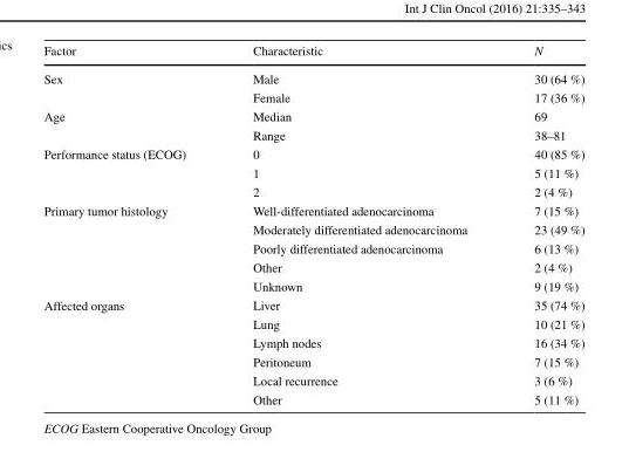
<table><thead><tr><td>Factor</td><td>Characteristic</td><td>N</td></tr></thead><tbody><tr><td rowspan="2">Sex</td><td>Male</td><td>30 (64 %)</td></tr><tr><td>Female</td><td>17 (36 %)</td></tr><tr><td rowspan="2">Age</td><td>Median</td><td>69</td></tr><tr><td>Range</td><td>38–81</td></tr><tr><td rowspan="3">Performance status (ECOG)</td><td>0</td><td>40 (85 %)</td></tr><tr><td>1</td><td>5 (11 %)</td></tr><tr><td>2</td><td>2 (4 %)</td></tr><tr><td rowspan="5">Primary tumor histology</td><td>Well-differentiated adenocarcinoma</td><td>7 (15 %)</td></tr><tr><td>Moderately differentiated adenocarcinoma</td><td>23 (49 %)</td></tr><tr><td>Poorly differentiated adenocarcinoma</td><td>6 (13 %)</td></tr><tr><td>Other</td><td>2 (4 %)</td></tr><tr><td>Unknown</td><td>9 (19 %)</td></tr><tr><td rowspan="6">Affected organs</td><td>Liver</td><td>35 (74 %)</td></tr><tr><td>Lung</td><td>10 (21 %)</td></tr><tr><td>Lymph nodes</td><td>16 (34 %)</td></tr><tr><td>Peritoneum</td><td>7 (15 %)</td></tr><tr><td>Local recurrence</td><td>3 (6 %)</td></tr><tr><td>Other</td><td>5 (11 %)</td></tr></tbody></table>